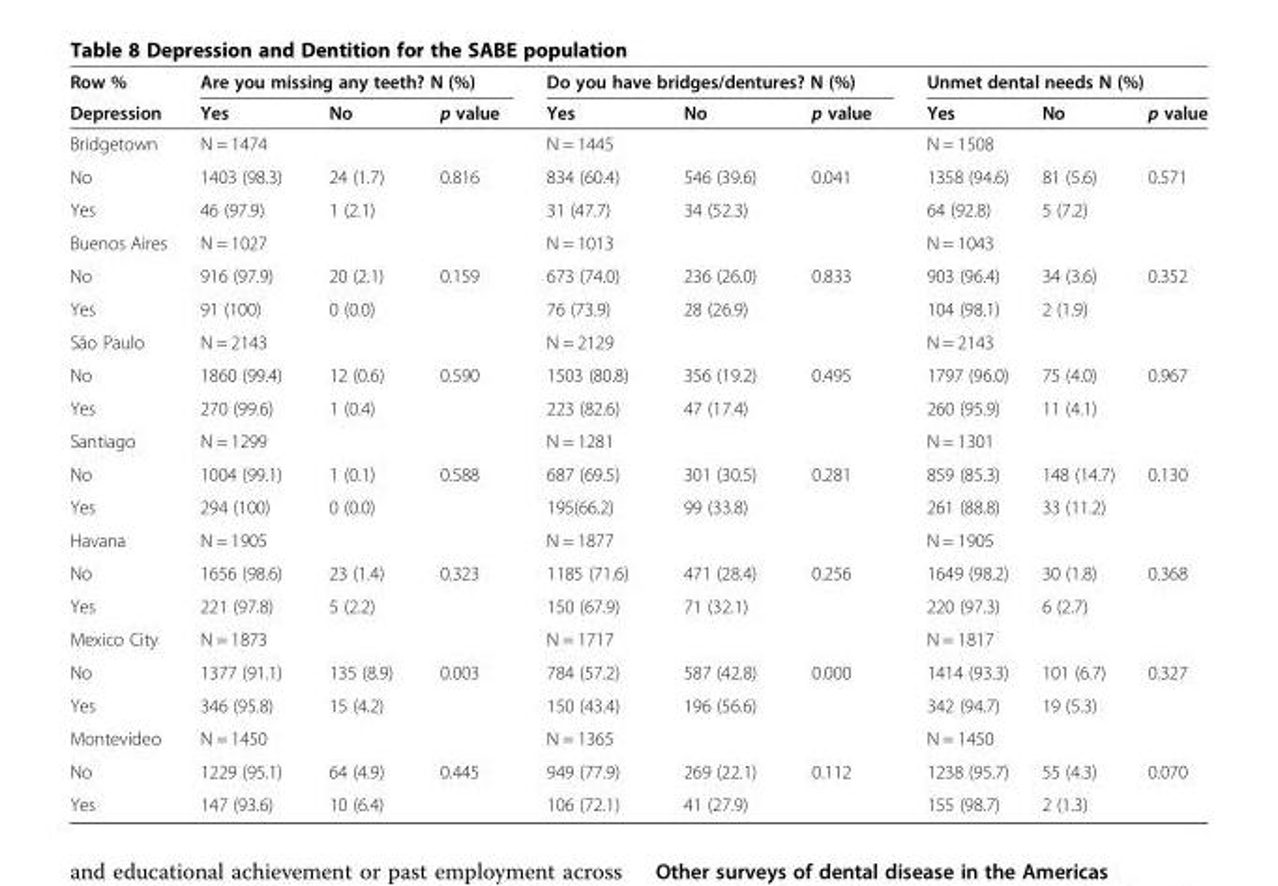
<table><thead><tr><td rowspan="2">Row % Depression</td><td colspan="3">Are you missing any teeth? N (%)</td><td colspan="3">Do you have bridges/dentures? N (%)</td><td colspan="3">Unmet dental needs N (%)</td></tr><tr><td>Yes</td><td>No</td><td>p value</td><td>Yes</td><td>No</td><td>p value</td><td>Yes</td><td>No</td><td>p value</td></tr></thead><tbody><tr><td>Bridgetown</td><td colspan="2">N = 1474</td><td></td><td colspan="2">N = 1445</td><td></td><td colspan="3">N = 1508</td></tr><tr><td>No</td><td>1403 (98.3)</td><td>24 (1.7)</td><td>0.816</td><td>834 (60.4)</td><td>546 (39.6)</td><td>0.041</td><td>1358 (94.6)</td><td>81 (5.6)</td><td>0.571</td></tr><tr><td>Yes</td><td>46 (97.9)</td><td>1 (2.1)</td><td></td><td>31 (47.7)</td><td>34 (52.3)</td><td></td><td>64 (92.8)</td><td>5 (7.2)</td><td></td></tr><tr><td>Buenos Aires</td><td colspan="2">N = 1027</td><td></td><td colspan="2">N = 1013</td><td></td><td colspan="3">N = 1043</td></tr><tr><td>No</td><td>916 (97.9)</td><td>20 (2.1)</td><td>0.159</td><td>673 (74.0)</td><td>236 (26.0)</td><td>0.833</td><td>903 (96.4)</td><td>34 (3.6)</td><td>0.352</td></tr><tr><td>Yes</td><td>91 (100)</td><td>0 (0.0)</td><td></td><td>76 (73.9)</td><td>28 (26.9)</td><td></td><td>104 (98.1)</td><td>2 (1.9)</td><td></td></tr><tr><td>São Paulo</td><td colspan="2">N = 2143</td><td></td><td colspan="2">N = 2129</td><td></td><td colspan="3">N = 2143</td></tr><tr><td>No</td><td>1860 (99.4)</td><td>12 (0.6)</td><td>0.590</td><td>1503 (80.8)</td><td>356 (19.2)</td><td>0.495</td><td>1797 (96.0)</td><td>75 (4.0)</td><td>0.967</td></tr><tr><td>Yes</td><td>270 (99.6)</td><td>1 (0.4)</td><td></td><td>223 (82.6)</td><td>47 (17.4)</td><td></td><td>260 (95.9)</td><td>11 (4.1)</td><td></td></tr><tr><td>Santiago</td><td colspan="2">N = 1299</td><td></td><td colspan="2">N = 1281</td><td></td><td colspan="3">N = 1301</td></tr><tr><td>No</td><td>1004 (99.1)</td><td>1 (0.1)</td><td>0.588</td><td>687 (69.5)</td><td>301 (30.5)</td><td>0.281</td><td>859 (85.3)</td><td>148 (14.7)</td><td>0.130</td></tr><tr><td>Yes</td><td>294 (100)</td><td>0 (0.0)</td><td></td><td>195(66.2)</td><td>99 (33.8)</td><td></td><td>261 (88.8)</td><td>33 (11.2)</td><td></td></tr><tr><td>Havana</td><td colspan="2">N = 1905</td><td></td><td colspan="2">N = 1877</td><td></td><td colspan="3">N = 1905</td></tr><tr><td>No</td><td>1656 (98.6)</td><td>23 (1.4)</td><td>0.323</td><td>1185 (71.6)</td><td>471 (28.4)</td><td>0.256</td><td>1649 (98.2)</td><td>30 (1.8)</td><td>0.368</td></tr><tr><td>Yes</td><td>221 (97.8)</td><td>5 (2.2)</td><td></td><td>150 (67.9)</td><td>71 (32.1)</td><td></td><td>220 (97.3)</td><td>6 (2.7)</td><td></td></tr><tr><td>Mexico City</td><td colspan="2">N = 1873</td><td></td><td colspan="2">N = 1717</td><td></td><td colspan="3">N = 1817</td></tr><tr><td>No</td><td>1377 (91.1)</td><td>135 (8.9)</td><td>0.003</td><td>784 (57.2)</td><td>587 (42.8)</td><td>0.000</td><td>1414 (93.3)</td><td>101 (6.7)</td><td>0.327</td></tr><tr><td>Yes</td><td>346 (95.8)</td><td>15 (4.2)</td><td></td><td>150 (43.4)</td><td>196 (56.6)</td><td></td><td>342 (94.7)</td><td>19 (5.3)</td><td></td></tr><tr><td>Montevideo</td><td colspan="2">N = 1450</td><td></td><td colspan="2">N = 1365</td><td></td><td colspan="3">N = 1450</td></tr><tr><td>No</td><td>1229 (95.1)</td><td>64 (4.9)</td><td>0.445</td><td>949 (77.9)</td><td>269 (22.1)</td><td>0.112</td><td>1238 (95.7)</td><td>55 (4.3)</td><td>0.070</td></tr><tr><td>Yes</td><td>147 (93.6)</td><td>10 (6.4)</td><td></td><td>106 (72.1)</td><td>41 (27.9)</td><td></td><td>155 (98.7)</td><td>2 (1.3)</td><td></td></tr></tbody></table>